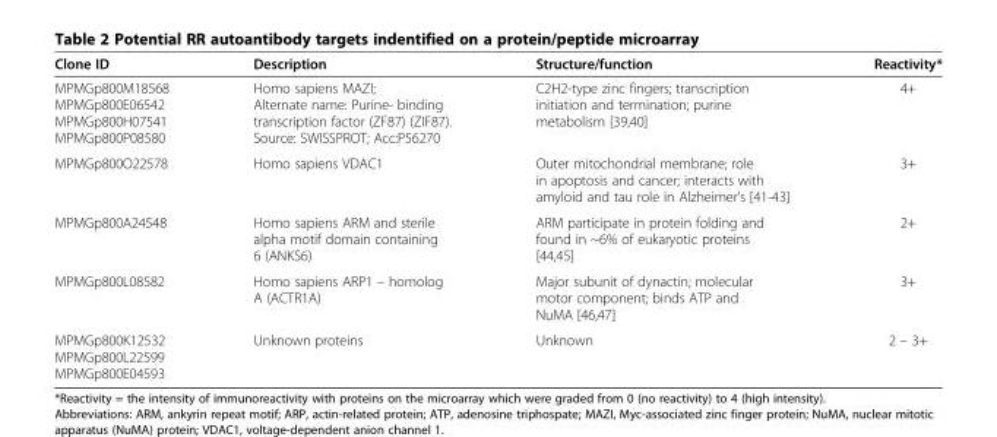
<table><thead><tr><td>Clone ID</td><td>Description</td><td>Structure/function</td><td>Reactivity*</td></tr></thead><tbody><tr><td>MPMGp800M18568 MPMGp800E06542 MPMGp800H07541 MPMGp800P08580</td><td>Homo sapiens MAZI; Alternate name: Purine- binding transcription factor (ZF87) (ZIF87). Source: SWISSPROT; Acc:P56270</td><td>C2H2-type zinc fingers; transcription initiation and termination; purine metabolism [39,40]</td><td>4+</td></tr><tr><td>MPMGp800O22578</td><td>Homo sapiens VDAC1</td><td>Outer mitochondrial membrane; role in apoptosis and cancer; interacts with amyloid and tau role in Alzheimer’s [41-43]</td><td>3+</td></tr><tr><td>MPMGp800A24548</td><td>Homo sapiens ARM and sterile alpha motif domain containing 6 (ANKS6)</td><td>ARM participate in protein folding and found in ~6% of eukaryotic proteins [44,45]</td><td>2+</td></tr><tr><td>MPMGp800L08582</td><td>Homo sapiens ARP1 – homolog A (ACTR1A)</td><td>Major subunit of dynactin; molecular motor component; binds ATP and NuMA [46,47]</td><td>3+</td></tr><tr><td>MPMGp800K12532 MPMGp800L22599 MPMGp800E04593</td><td>Unknown proteins</td><td>Unknown</td><td>2 – 3+</td></tr></tbody></table>